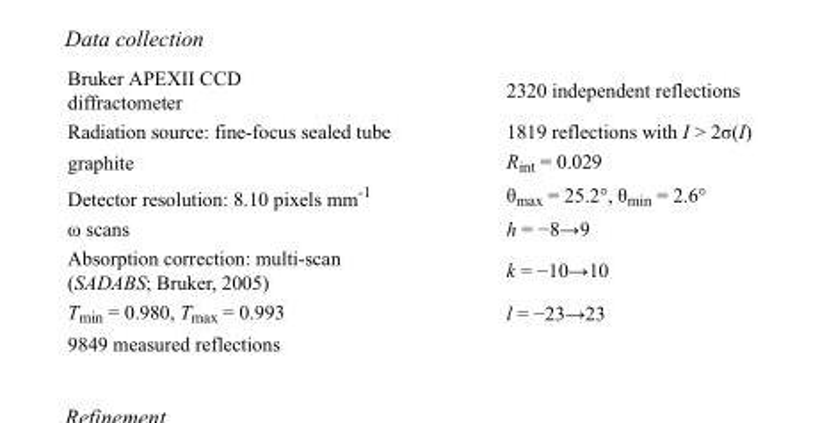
<table><tbody><tr><td>Bruker APEXII CCD diffractometer</td><td>2320 independent reflections</td></tr><tr><td>Radiation source: fine-focus sealed tube</td><td>1819 reflections with I &gt; 2σ(I)</td></tr><tr><td>graphite</td><td>R<sub>int</sub> = 0.029</td></tr><tr><td>Detector resolution: 8.10 pixels mm<sup>-1</sup></td><td>θ<sub>max</sub> = 25.2°, θ<sub>min</sub> = 2.6°</td></tr><tr><td>ω scans</td><td>h = −8→9</td></tr><tr><td>Absorption correction: multi-scan (SADABS; Bruker, 2005)</td><td>k = −10→10</td></tr><tr><td>T<sub>min</sub> = 0.980, T<sub>max</sub> = 0.993</td><td>l = −23→23</td></tr><tr><td>9849 measured reflections</td><td></td></tr></tbody></table>